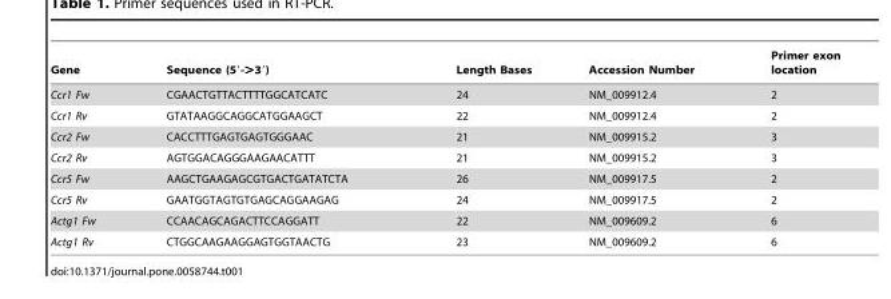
<table><thead><tr><td>Gene</td><td>Sequence (5′-&gt;3′)</td><td>Length Bases</td><td>Accession Number</td><td>Primer exon location</td></tr></thead><tbody><tr><td>Ccr1 Fw</td><td>CGAACTGTTACTTTTGGCATCATC</td><td>24</td><td>NM_009912.4</td><td>2</td></tr><tr><td>Ccr1 Rv</td><td>GTATAAGGCAGGCATGGAAGCT</td><td>22</td><td>NM_009912.4</td><td>2</td></tr><tr><td>Ccr2 Fw</td><td>CACCTTTGAGTGAGTGGGAAC</td><td>21</td><td>NM_009915.2</td><td>3</td></tr><tr><td>Ccr2 Rv</td><td>AGTGGACAGGGAAGAACATTT</td><td>21</td><td>NM_009915.2</td><td>3</td></tr><tr><td>Ccr5 Fw</td><td>AAGCTGAAGAGCGTGACTGATATCTA</td><td>26</td><td>NM_009917.5</td><td>2</td></tr><tr><td>Ccr5 Rv</td><td>GAATGGTAGTGTGAGCAGGAAGAG</td><td>24</td><td>NM_009917.5</td><td>2</td></tr><tr><td>Actg1 Fw</td><td>CCAACAGCAGACTTCCAGGATT</td><td>22</td><td>NM_009609.2</td><td>6</td></tr><tr><td>Actg1 Rv</td><td>CTGGCAAGAAGGAGTGGTAACTG</td><td>23</td><td>NM_009609.2</td><td>6</td></tr></tbody></table>